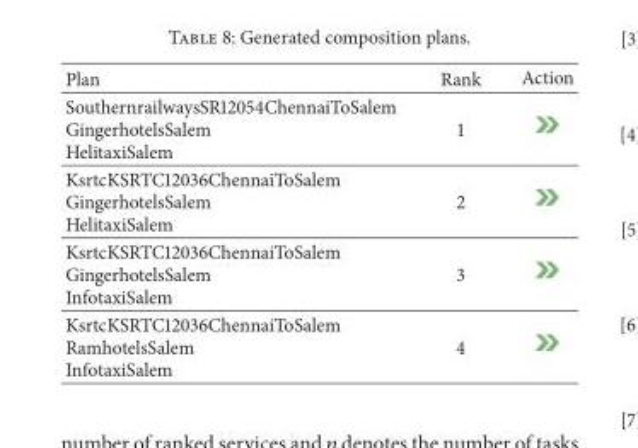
<table><thead><tr><td>Plan</td><td>Rank</td><td>Action</td></tr></thead><tbody><tr><td>SouthernrailwaysSR12054ChennaiToSalem GingerhotelsSalem HelitaxiSalem</td><td>1</td><td></td></tr><tr><td>KsrtcKSRTC12036ChennaiToSalem GingerhotelsSalem HelitaxiSalem</td><td>2</td><td></td></tr><tr><td>KsrtcKSRTC12036ChennaiToSalem GingerhotelsSalem InfotaxiSalem</td><td>3</td><td></td></tr><tr><td>KsrtcKSRTC12036ChennaiToSalem RamhotelsSalem InfotaxiSalem</td><td>4</td><td></td></tr></tbody></table>